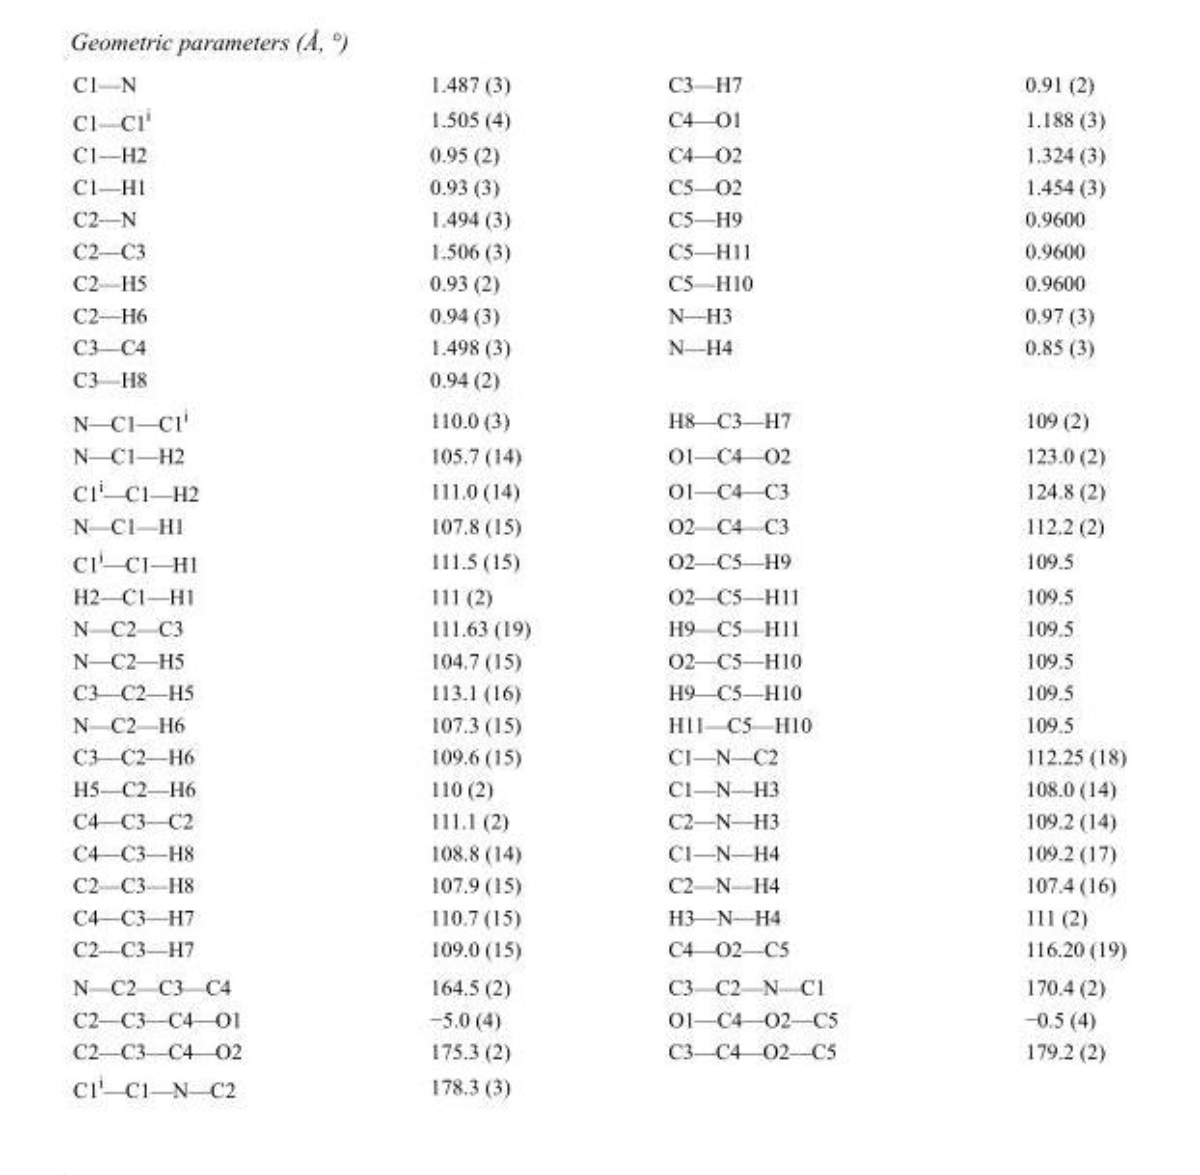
<table><tbody><tr><td>C1—N</td><td>1.487 (3)</td><td>C3—H7</td><td>0.91 (2)</td></tr><tr><td>C1—C1<sup>i</sup></td><td>1.505 (4)</td><td>C4—O1</td><td>1.188 (3)</td></tr><tr><td>C1—H2</td><td>0.95 (2)</td><td>C4—O2</td><td>1.324 (3)</td></tr><tr><td>C1—H1</td><td>0.93 (3)</td><td>C5—O2</td><td>1.454 (3)</td></tr><tr><td>C2—N</td><td>1.494 (3)</td><td>C5—H9</td><td>0.9600</td></tr><tr><td>C2—C3</td><td>1.506 (3)</td><td>C5—H11</td><td>0.9600</td></tr><tr><td>C2—H5</td><td>0.93 (2)</td><td>C5—H10</td><td>0.9600</td></tr><tr><td>C2—H6</td><td>0.94 (3)</td><td>N—H3</td><td>0.97 (3)</td></tr><tr><td>C3—C4</td><td>1.498 (3)</td><td>N—H4</td><td>0.85 (3)</td></tr><tr><td>C3—H8</td><td>0.94 (2)</td><td></td><td></td></tr><tr><td>N—C1—C1<sup>i</sup></td><td>110.0 (3)</td><td>H8—C3—H7</td><td>109 (2)</td></tr><tr><td>N—C1—H2</td><td>105.7 (14)</td><td>O1—C4—O2</td><td>123.0 (2)</td></tr><tr><td>C1<sup>i</sup>—C1—H2</td><td>111.0 (14)</td><td>O1—C4—C3</td><td>124.8 (2)</td></tr><tr><td>N—C1—H1</td><td>107.8 (15)</td><td>O2—C4—C3</td><td>112.2 (2)</td></tr><tr><td>C1<sup>i</sup>—C1—H1</td><td>111.5 (15)</td><td>O2—C5—H9</td><td>109.5</td></tr><tr><td>H2—C1—H1</td><td>111 (2)</td><td>O2—C5—H11</td><td>109.5</td></tr><tr><td>N—C2—C3</td><td>111.63 (19)</td><td>H9—C5—H11</td><td>109.5</td></tr><tr><td>N—C2—H5</td><td>104.7 (15)</td><td>O2—C5—H10</td><td>109.5</td></tr><tr><td>C3—C2—H5</td><td>113.1 (16)</td><td>H9—C5—H10</td><td>109.5</td></tr><tr><td>N—C2—H6</td><td>107.3 (15)</td><td>H11—C5—H10</td><td>109.5</td></tr><tr><td>C3—C2—H6</td><td>109.6 (15)</td><td>C1—N—C2</td><td>112.25 (18)</td></tr><tr><td>H5—C2—H6</td><td>110 (2)</td><td>C1—N—H3</td><td>108.0 (14)</td></tr><tr><td>C4—C3—C2</td><td>111.1 (2)</td><td>C2—N—H3</td><td>109.2 (14)</td></tr><tr><td>C4—C3—H8</td><td>108.8 (14)</td><td>C1—N—H4</td><td>109.2 (17)</td></tr><tr><td>C2—C3—H8</td><td>107.9 (15)</td><td>C2—N—H4</td><td>107.4 (16)</td></tr><tr><td>C4—C3—H7</td><td>110.7 (15)</td><td>H3—N—H4</td><td>111 (2)</td></tr><tr><td>C2—C3—H7</td><td>109.0 (15)</td><td>C4—O2—C5</td><td>116.20 (19)</td></tr><tr><td>N—C2—C3—C4</td><td>164.5 (2)</td><td>C3—C2—N—C1</td><td>170.4 (2)</td></tr><tr><td>C2—C3—C4—O1</td><td>−5.0 (4)</td><td>O1—C4—O2—C5</td><td>−0.5 (4)</td></tr><tr><td>C2—C3—C4—O2</td><td>175.3 (2)</td><td>C3—C4—O2—C5</td><td>179.2 (2)</td></tr><tr><td>C1<sup>i</sup>—C1—N—C2</td><td>178.3 (3)</td><td></td><td></td></tr></tbody></table>